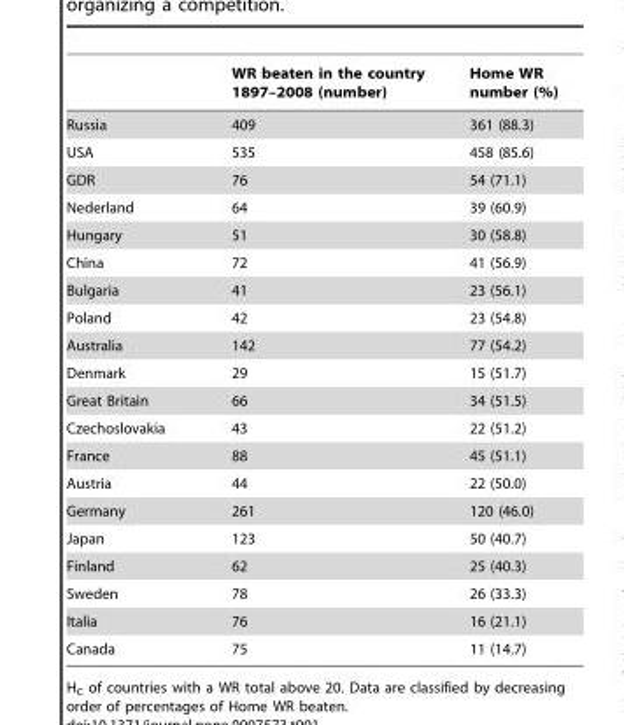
<table><thead><tr><td></td><td>WR beaten in the country 1897–2008 (number)</td><td>Home WR number (%)</td></tr></thead><tbody><tr><td>Russia</td><td>409</td><td>361 (88.3)</td></tr><tr><td>USA</td><td>535</td><td>458 (85.6)</td></tr><tr><td>GDR</td><td>76</td><td>54 (71.1)</td></tr><tr><td>Nederland</td><td>64</td><td>39 (60.9)</td></tr><tr><td>Hungary</td><td>51</td><td>30 (58.8)</td></tr><tr><td>China</td><td>72</td><td>41 (56.9)</td></tr><tr><td>Bulgaria</td><td>41</td><td>23 (56.1)</td></tr><tr><td>Poland</td><td>42</td><td>23 (54.8)</td></tr><tr><td>Australia</td><td>142</td><td>77 (54.2)</td></tr><tr><td>Denmark</td><td>29</td><td>15 (51.7)</td></tr><tr><td>Great Britain</td><td>66</td><td>34 (51.5)</td></tr><tr><td>Czechoslovakia</td><td>43</td><td>22 (51.2)</td></tr><tr><td>France</td><td>88</td><td>45 (51.1)</td></tr><tr><td>Austria</td><td>44</td><td>22 (50.0)</td></tr><tr><td>Germany</td><td>261</td><td>120 (46.0)</td></tr><tr><td>Japan</td><td>123</td><td>50 (40.7)</td></tr><tr><td>Finland</td><td>62</td><td>25 (40.3)</td></tr><tr><td>Sweden</td><td>78</td><td>26 (33.3)</td></tr><tr><td>Italia</td><td>76</td><td>16 (21.1)</td></tr><tr><td>Canada</td><td>75</td><td>11 (14.7)</td></tr></tbody></table>